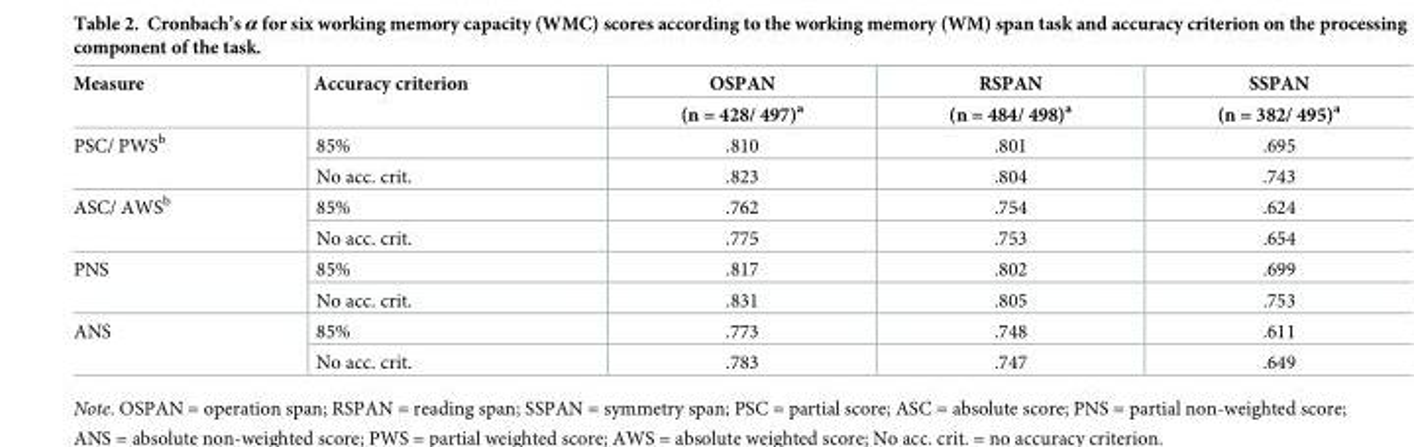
<table><thead><tr><td rowspan="2">Measure</td><td rowspan="2">Accuracy criterion</td><td rowspan="2">OSPAN (n = 428/ 497)<sup>a</sup></td><td rowspan="2">RSPAN (n = 484/ 498)<sup>a</sup></td><td rowspan="2">SSPAN (n = 382/ 495)<sup>a</sup></td></tr><tr></tr></thead><tbody><tr><td rowspan="2">PSC/ PWS<sup>b</sup></td><td>85%</td><td>.810</td><td>.801</td><td>.695</td></tr><tr><td>No acc. crit.</td><td>.823</td><td>.804</td><td>.743</td></tr><tr><td rowspan="2">ASC/ AWS<sup>b</sup></td><td>85%</td><td>.762</td><td>.754</td><td>.624</td></tr><tr><td>No acc. crit.</td><td>.775</td><td>.753</td><td>.654</td></tr><tr><td rowspan="2">PNS</td><td>85%</td><td>.817</td><td>.802</td><td>.699</td></tr><tr><td>No acc. crit.</td><td>.831</td><td>.805</td><td>.753</td></tr><tr><td rowspan="2">ANS</td><td>85%</td><td>.773</td><td>.748</td><td>.611</td></tr><tr><td>No acc. crit.</td><td>.783</td><td>.747</td><td>.649</td></tr></tbody></table>